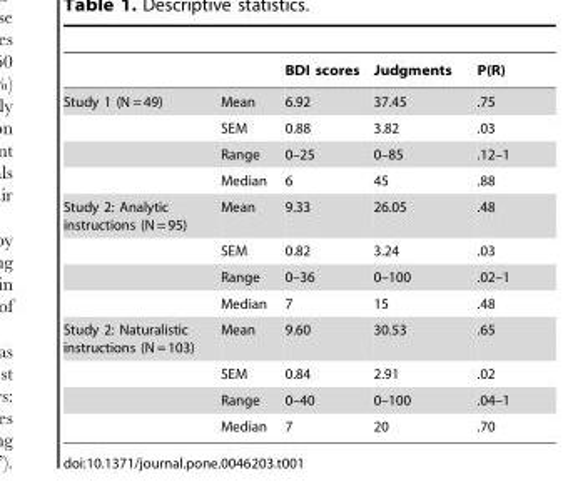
<table><thead><tr><td></td><td></td><td>BDI scores</td><td>Judgments</td><td>P(R)</td></tr></thead><tbody><tr><td rowspan="4">Study 1 (N = 49)</td><td>Mean</td><td>6.92</td><td>37.45</td><td>.75</td></tr><tr><td>SEM</td><td>0.88</td><td>3.82</td><td>.03</td></tr><tr><td>Range</td><td>0–25</td><td>0–85</td><td>.12–1</td></tr><tr><td>Median</td><td>6</td><td>45</td><td>.88</td></tr><tr><td rowspan="4">Study 2: Analytic instructions (N = 95)</td><td>Mean</td><td>9.33</td><td>26.05</td><td>.48</td></tr><tr><td>SEM</td><td>0.82</td><td>3.24</td><td>.03</td></tr><tr><td>Range</td><td>0–36</td><td>0–100</td><td>.02–1</td></tr><tr><td>Median</td><td>7</td><td>15</td><td>.48</td></tr><tr><td rowspan="4">Study 2: Naturalistic instructions (N = 103)</td><td>Mean</td><td>9.60</td><td>30.53</td><td>.65</td></tr><tr><td>SEM</td><td>0.84</td><td>2.91</td><td>.02</td></tr><tr><td>Range</td><td>0–40</td><td>0–100</td><td>.04–1</td></tr><tr><td>Median</td><td>7</td><td>20</td><td>.70</td></tr></tbody></table>